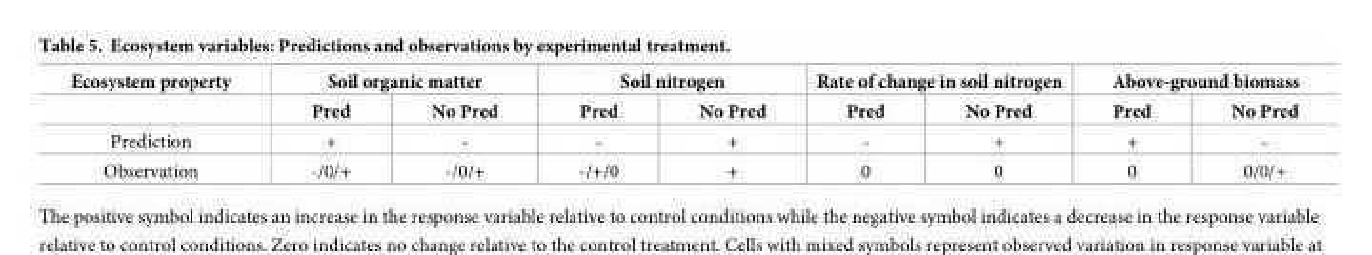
<table><thead><tr><td rowspan="2">Ecosystem property</td><td colspan="2">Soil organic matter</td><td colspan="2">Soil nitrogen</td><td colspan="2">Rate of change in soil nitrogen</td><td colspan="2">Above-ground biomass</td></tr><tr><td>Pred</td><td>No Pred</td><td>Pred</td><td>No Pred</td><td>Pred</td><td>No Pred</td><td>Pred</td><td>No Pred</td></tr></thead><tbody><tr><td>Prediction</td><td>+</td><td>-</td><td>-</td><td>+</td><td>-</td><td>+</td><td>+</td><td>-</td></tr><tr><td>Observation</td><td>-/0/+</td><td>-/0/+</td><td>-/+/0</td><td>+</td><td>0</td><td>0</td><td>0</td><td>0/0/+</td></tr></tbody></table>